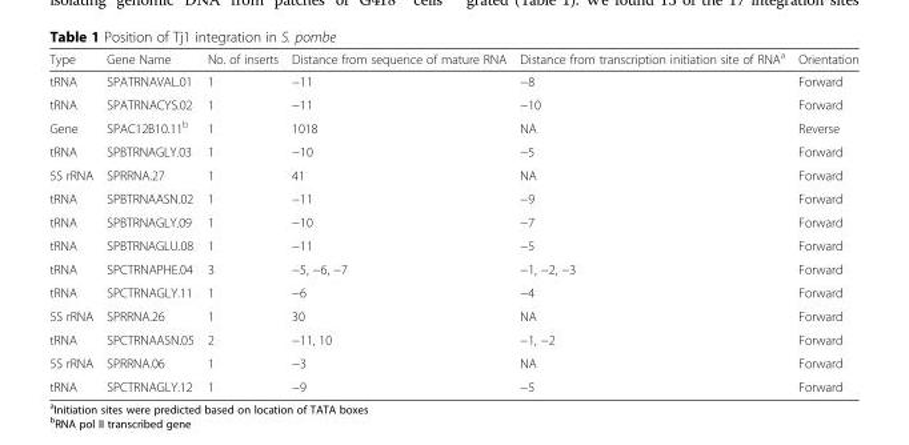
<table><thead><tr><td>Type</td><td>Gene Name</td><td>No. of inserts</td><td>Distance from sequence of mature RNA</td><td>Distance from transcription initiation site of RNA<sup>a</sup></td><td>Orientation</td></tr></thead><tbody><tr><td>tRNA</td><td>SPATRNAVAL.01</td><td>1</td><td>−11</td><td>−8</td><td>Forward</td></tr><tr><td>tRNA</td><td>SPATRNACYS.02</td><td>1</td><td>−11</td><td>−10</td><td>Forward</td></tr><tr><td>Gene</td><td>SPAC12B10.11<sup>b</sup></td><td>1</td><td>1018</td><td>NA</td><td>Reverse</td></tr><tr><td>tRNA</td><td>SPBTRNAGLY.03</td><td>1</td><td>−10</td><td>−5</td><td>Forward</td></tr><tr><td>5S rRNA</td><td>SPRRNA.27</td><td>1</td><td>41</td><td>NA</td><td>Forward</td></tr><tr><td>tRNA</td><td>SPBTRNAASN.02</td><td>1</td><td>−11</td><td>−9</td><td>Forward</td></tr><tr><td>tRNA</td><td>SPBTRNAGLY.09</td><td>1</td><td>−10</td><td>−7</td><td>Forward</td></tr><tr><td>tRNA</td><td>SPBTRNAGLU.08</td><td>1</td><td>−11</td><td>−5</td><td>Forward</td></tr><tr><td>tRNA</td><td>SPCTRNAPHE.04</td><td>3</td><td>−5, −6, −7</td><td>−1, −2, −3</td><td>Forward</td></tr><tr><td>tRNA</td><td>SPCTRNAGLY.11</td><td>1</td><td>−6</td><td>−4</td><td>Forward</td></tr><tr><td>5S rRNA</td><td>SPRRNA.26</td><td>1</td><td>30</td><td>NA</td><td>Forward</td></tr><tr><td>tRNA</td><td>SPCTRNAASN.05</td><td>2</td><td>−11, 10</td><td>−1, −2</td><td>Forward</td></tr><tr><td>5S rRNA</td><td>SPRRNA.06</td><td>1</td><td>−3</td><td>NA</td><td>Forward</td></tr><tr><td>tRNA</td><td>SPCTRNAGLY.12</td><td>1</td><td>−9</td><td>−5</td><td>Forward</td></tr></tbody></table>